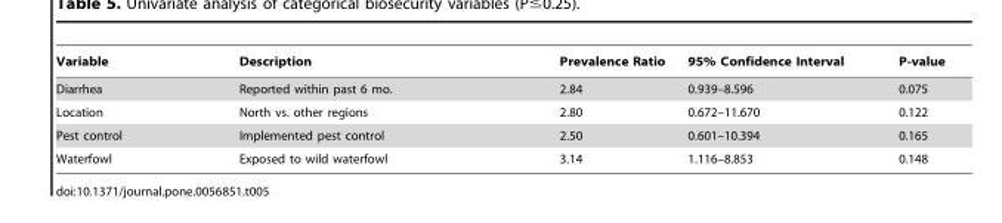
<table><thead><tr><td>Variable</td><td>Description</td><td>Prevalence Ratio</td><td>95% Confidence Interval</td><td>P-value</td></tr></thead><tbody><tr><td>Diarrhea</td><td>Reported within past 6 mo.</td><td>2.84</td><td>0.939–8.596</td><td>0.075</td></tr><tr><td>Location</td><td>North vs. other regions</td><td>2.80</td><td>0.672–11.670</td><td>0.122</td></tr><tr><td>Pest control</td><td>Implemented pest control</td><td>2.50</td><td>0.601–10.394</td><td>0.165</td></tr><tr><td>Waterfowl</td><td>Exposed to wild waterfowl</td><td>3.14</td><td>1.116–8.853</td><td>0.148</td></tr></tbody></table>